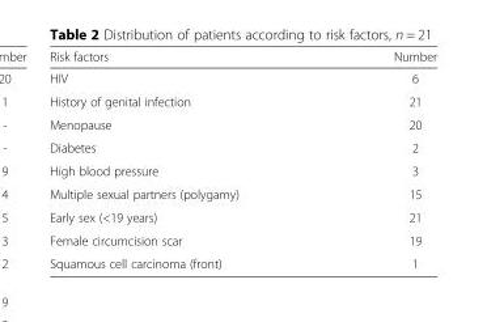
<table><thead><tr><td>Risk factors</td><td>Number</td></tr></thead><tbody><tr><td>HIV</td><td>6</td></tr><tr><td>History of genital infection</td><td>21</td></tr><tr><td>Menopause</td><td>20</td></tr><tr><td>Diabetes</td><td>2</td></tr><tr><td>High blood pressure</td><td>3</td></tr><tr><td>Multiple sexual partners (polygamy)</td><td>15</td></tr><tr><td>Early sex (&lt;19 years)</td><td>21</td></tr><tr><td>Female circumcision scar</td><td>19</td></tr><tr><td>Squamous cell carcinoma (front)</td><td>1</td></tr></tbody></table>